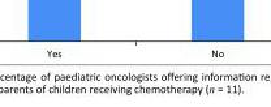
<table><tbody><tr><td>Yes</td><td>No</td></tr></tbody></table>